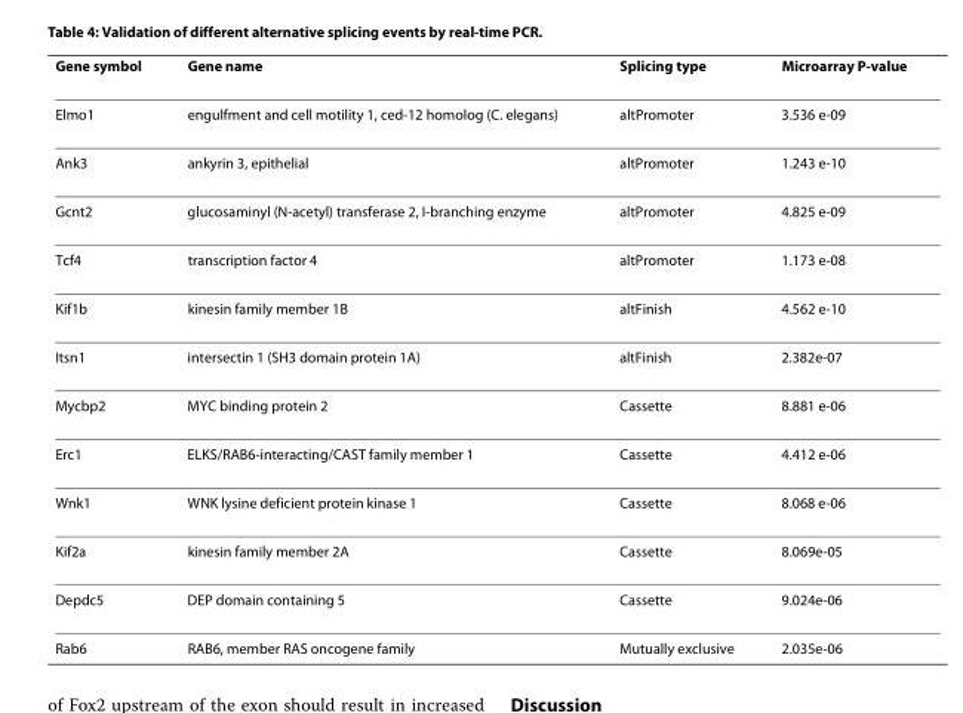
<table><thead><tr><td>Gene symbol</td><td>Gene name</td><td>Splicing type</td><td>Microarray P-value</td></tr></thead><tbody><tr><td>Elmo1</td><td>engulfment and cell motility 1, ced-12 homolog (C. elegans)</td><td>altPromoter</td><td>3.536 e-09</td></tr><tr><td>Ank3</td><td>ankyrin 3, epithelial</td><td>altPromoter</td><td>1.243 e-10</td></tr><tr><td>Gcnt2</td><td>glucosaminyl (N-acetyl) transferase 2, I-branching enzyme</td><td>altPromoter</td><td>4.825 e-09</td></tr><tr><td>Tcf4</td><td>transcription factor 4</td><td>altPromoter</td><td>1.173 e-08</td></tr><tr><td>Kif1b</td><td>kinesin family member 1B</td><td>altFinish</td><td>4.562 e-10</td></tr><tr><td>Itsn1</td><td>intersectin 1 (SH3 domain protein 1A)</td><td>altFinish</td><td>2.382e-07</td></tr><tr><td>Mycbp2</td><td>MYC binding protein 2</td><td>Cassette</td><td>8.881 e-06</td></tr><tr><td>Erc1</td><td>ELKS/RAB6-interacting/CAST family member 1</td><td>Cassette</td><td>4.412 e-06</td></tr><tr><td>Wnk1</td><td>WNK lysine deficient protein kinase 1</td><td>Cassette</td><td>8.068 e-06</td></tr><tr><td>Kif2a</td><td>kinesin family member 2A</td><td>Cassette</td><td>8.069e-05</td></tr><tr><td>Depdc5</td><td>DEP domain containing 5</td><td>Cassette</td><td>9.024e-06</td></tr><tr><td>Rab6</td><td>RAB6, member RAS oncogene family</td><td>Mutually exclusive</td><td>2.035e-06</td></tr></tbody></table>